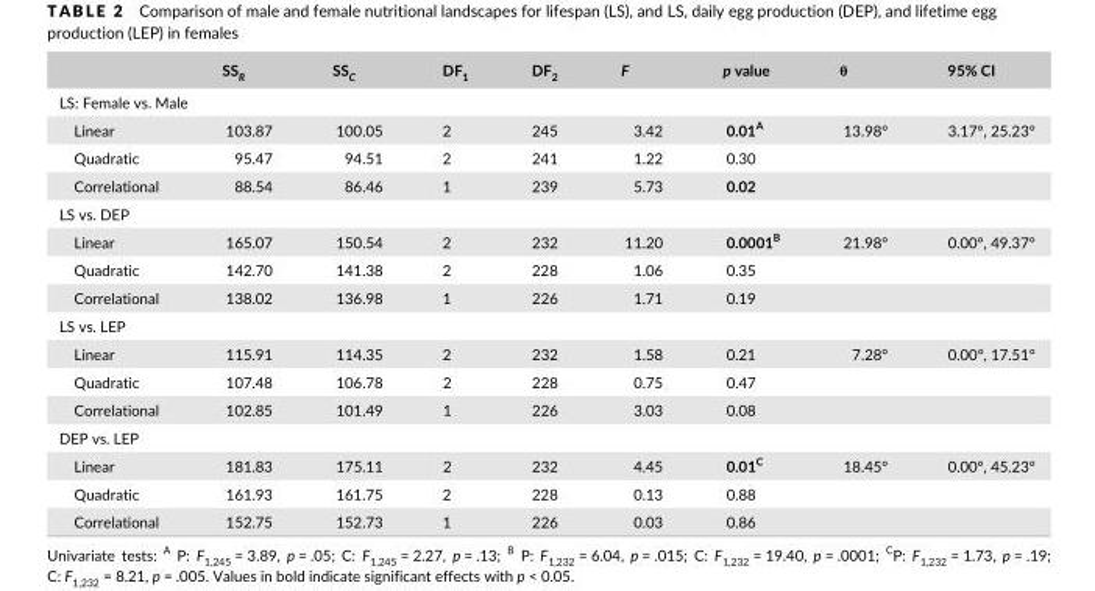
<table><thead><tr><td></td><td>SS<sub>R</sub></td><td>SS<sub>C</sub></td><td>DF<sub>1</sub></td><td>DF<sub>2</sub></td><td>F</td><td>p value</td><td>θ</td><td>95% CI</td></tr></thead><tbody><tr><td colspan="9">LS: Female vs. Male</td></tr><tr><td>Linear</td><td>103.87</td><td>100.05</td><td>2</td><td>245</td><td>3.42</td><td>0.01<sup>A</sup></td><td>13.98°</td><td>3.17°, 25.23°</td></tr><tr><td>Quadratic</td><td>95.47</td><td>94.51</td><td>2</td><td>241</td><td>1.22</td><td>0.30</td><td></td><td></td></tr><tr><td>Correlational</td><td>88.54</td><td>86.46</td><td>1</td><td>239</td><td>5.73</td><td>0.02</td><td></td><td></td></tr><tr><td colspan="9">LS vs. DEP</td></tr><tr><td>Linear</td><td>165.07</td><td>150.54</td><td>2</td><td>232</td><td>11.20</td><td>0.0001<sup>B</sup></td><td>21.98°</td><td>0.00°, 49.37°</td></tr><tr><td>Quadratic</td><td>142.70</td><td>141.38</td><td>2</td><td>228</td><td>1.06</td><td>0.35</td><td></td><td></td></tr><tr><td>Correlational</td><td>138.02</td><td>136.98</td><td>1</td><td>226</td><td>1.71</td><td>0.19</td><td></td><td></td></tr><tr><td colspan="9">LS vs. LEP</td></tr><tr><td>Linear</td><td>115.91</td><td>114.35</td><td>2</td><td>232</td><td>1.58</td><td>0.21</td><td>7.28°</td><td>0.00°, 17.51°</td></tr><tr><td>Quadratic</td><td>107.48</td><td>106.78</td><td>2</td><td>228</td><td>0.75</td><td>0.47</td><td></td><td></td></tr><tr><td>Correlational</td><td>102.85</td><td>101.49</td><td>1</td><td>226</td><td>3.03</td><td>0.08</td><td></td><td></td></tr><tr><td colspan="9">DEP vs. LEP</td></tr><tr><td>Linear</td><td>181.83</td><td>175.11</td><td>2</td><td>232</td><td>4.45</td><td>0.01<sup>C</sup></td><td>18.45°</td><td>0.00°, 45.23°</td></tr><tr><td>Quadratic</td><td>161.93</td><td>161.75</td><td>2</td><td>228</td><td>0.13</td><td>0.88</td><td></td><td></td></tr><tr><td>Correlational</td><td>152.75</td><td>152.73</td><td>1</td><td>226</td><td>0.03</td><td>0.86</td><td></td><td></td></tr></tbody></table>